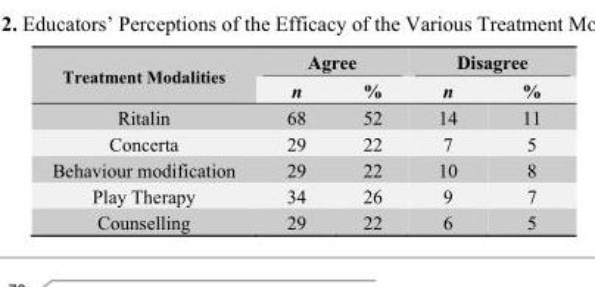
<table><thead><tr><td rowspan="2">Treatment Modalities</td><td colspan="2">Agree</td><td colspan="2">Disagree</td></tr><tr><td>n</td><td>%</td><td>n</td><td>%</td></tr></thead><tbody><tr><td>Ritalin</td><td>68</td><td>52</td><td>14</td><td>11</td></tr><tr><td>Concerta</td><td>29</td><td>22</td><td>7</td><td>5</td></tr><tr><td>Behaviour modification</td><td>29</td><td>22</td><td>10</td><td>8</td></tr><tr><td>Play Therapy</td><td>34</td><td>26</td><td>9</td><td>7</td></tr><tr><td>Counselling</td><td>29</td><td>22</td><td>6</td><td>5</td></tr></tbody></table>